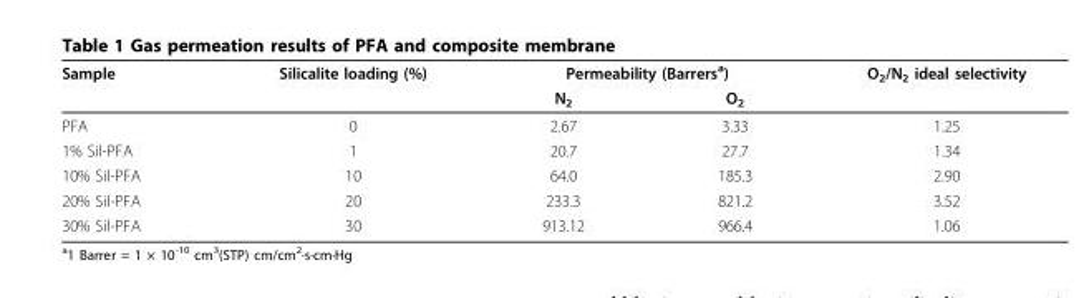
<table><thead><tr><td rowspan="2">Sample</td><td rowspan="2">Silicalite loading (%)</td><td colspan="2">Permeability (Barrers<sup>a</sup>)</td><td rowspan="2">O<sub>2</sub>/N<sub>2</sub> ideal selectivity</td></tr><tr><td>N<sub>2</sub></td><td>O<sub>2</sub></td></tr></thead><tbody><tr><td>PFA</td><td>0</td><td>2.67</td><td>3.33</td><td>1.25</td></tr><tr><td>1% Sil-PFA</td><td>1</td><td>20.7</td><td>27.7</td><td>1.34</td></tr><tr><td>10% Sil-PFA</td><td>10</td><td>64.0</td><td>185.3</td><td>2.90</td></tr><tr><td>20% Sil-PFA</td><td>20</td><td>233.3</td><td>821.2</td><td>3.52</td></tr><tr><td>30% Sil-PFA</td><td>30</td><td>913.12</td><td>966.4</td><td>1.06</td></tr></tbody></table>